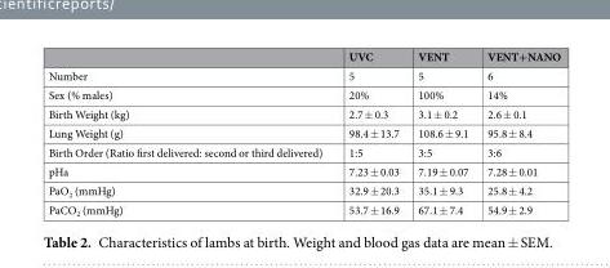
<table><thead><tr><td></td><td>UVC</td><td>VENT</td><td>VENT+NANO</td></tr></thead><tbody><tr><td>Number</td><td>5</td><td>5</td><td>6</td></tr><tr><td>Sex (% males)</td><td>20%</td><td>100%</td><td>14%</td></tr><tr><td>Birth Weight (kg)</td><td>2.7 ± 0.3</td><td>3.1 ± 0.2</td><td>2.6 ± 0.1</td></tr><tr><td>Lung Weight (g)</td><td>98.4 ± 13.7</td><td>108.6 ± 9.1</td><td>95.8 ± 8.4</td></tr><tr><td>Birth Order (Ratio first delivered: second or third delivered)</td><td>1:5</td><td>3:5</td><td>3:6</td></tr><tr><td>pHa</td><td>7.23 ± 0.03</td><td>7.19 ± 0.07</td><td>7.28 ± 0.01</td></tr><tr><td>PaO<sub>2</sub> (mmHg)</td><td>32.9 ± 20.3</td><td>35.1 ± 9.3</td><td>25.8 ± 4.2</td></tr><tr><td>PaCO<sub>2</sub> (mmHg)</td><td>53.7 ± 16.9</td><td>67.1 ± 7.4</td><td>54.9 ± 2.9</td></tr></tbody></table>